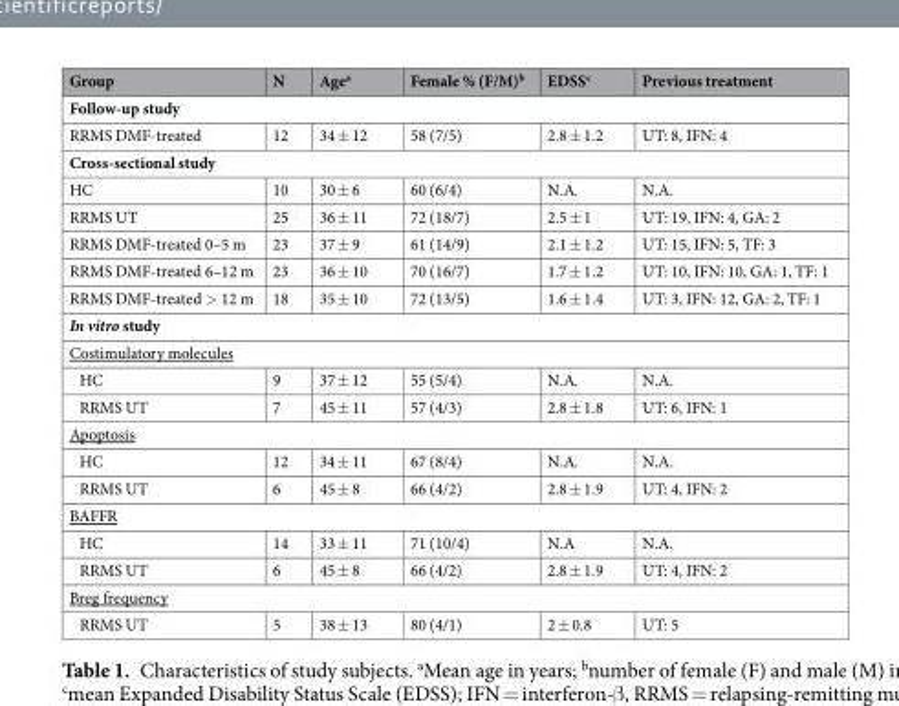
<table><thead><tr><td>Group</td><td>N</td><td>Age<sup>a</sup></td><td>Female % (F/M)<sup>b</sup></td><td>EDSS<sup>c</sup></td><td>Previous treatment</td></tr></thead><tbody><tr><td colspan="6">Follow-up study</td></tr><tr><td>RRMS DMF-treated</td><td>12</td><td>34 ± 12</td><td>58 (7/5)</td><td>2.8 ± 1.2</td><td>UT: 8, IFN: 4</td></tr><tr><td colspan="6">Cross-sectional study</td></tr><tr><td>HC</td><td>10</td><td>30 ± 6</td><td>60 (6/4)</td><td>N.A.</td><td>N.A.</td></tr><tr><td>RRMS UT</td><td>25</td><td>36 ± 11</td><td>72 (18/7)</td><td>2.5 ± 1</td><td>UT: 19, IFN: 4, GA: 2</td></tr><tr><td>RRMS DMF-treated 0–5 m</td><td>23</td><td>37 ± 9</td><td>61 (14/9)</td><td>2.1 ± 1.2</td><td>UT: 15, IFN: 5, TF: 3</td></tr><tr><td>RRMS DMF-treated 6–12 m</td><td>23</td><td>36 ± 10</td><td>70 (16/7)</td><td>1.7 ± 1.2</td><td>UT: 10, IFN: 10, GA: 1, TF: 1</td></tr><tr><td>RRMS DMF-treated &gt; 12 m</td><td>18</td><td>35 ± 10</td><td>72 (13/5)</td><td>1.6 ± 1.4</td><td>UT: 3, IFN: 12, GA: 2, TF: 1</td></tr><tr><td colspan="6">In vitro study</td></tr><tr><td colspan="6">Costimulatory molecules</td></tr><tr><td>HC</td><td>9</td><td>37 ± 12</td><td>55 (5/4)</td><td>N.A.</td><td>N.A.</td></tr><tr><td>RRMS UT</td><td>7</td><td>45 ± 11</td><td>57 (4/3)</td><td>2.8 ± 1.8</td><td>UT: 6, IFN: 1</td></tr><tr><td colspan="6">Apoptosis</td></tr><tr><td>HC</td><td>12</td><td>34 ± 11</td><td>67 (8/4)</td><td>N.A.</td><td>N.A.</td></tr><tr><td>RRMS UT</td><td>6</td><td>45 ± 8</td><td>66 (4/2)</td><td>2.8 ± 1.9</td><td>UT: 4, IFN: 2</td></tr><tr><td colspan="6">BAFFR</td></tr><tr><td>HC</td><td>14</td><td>33 ± 11</td><td>71 (10/4)</td><td>N.A</td><td>N.A.</td></tr><tr><td>RRMS UT</td><td>6</td><td>45 ± 8</td><td>66 (4/2)</td><td>2.8 ± 1.9</td><td>UT: 4, IFN: 2</td></tr><tr><td colspan="6">Breg frequency</td></tr><tr><td>RRMS UT</td><td>5</td><td>38 ± 13</td><td>80 (4/1)</td><td>2 ± 0.8</td><td>UT: 5</td></tr></tbody></table>